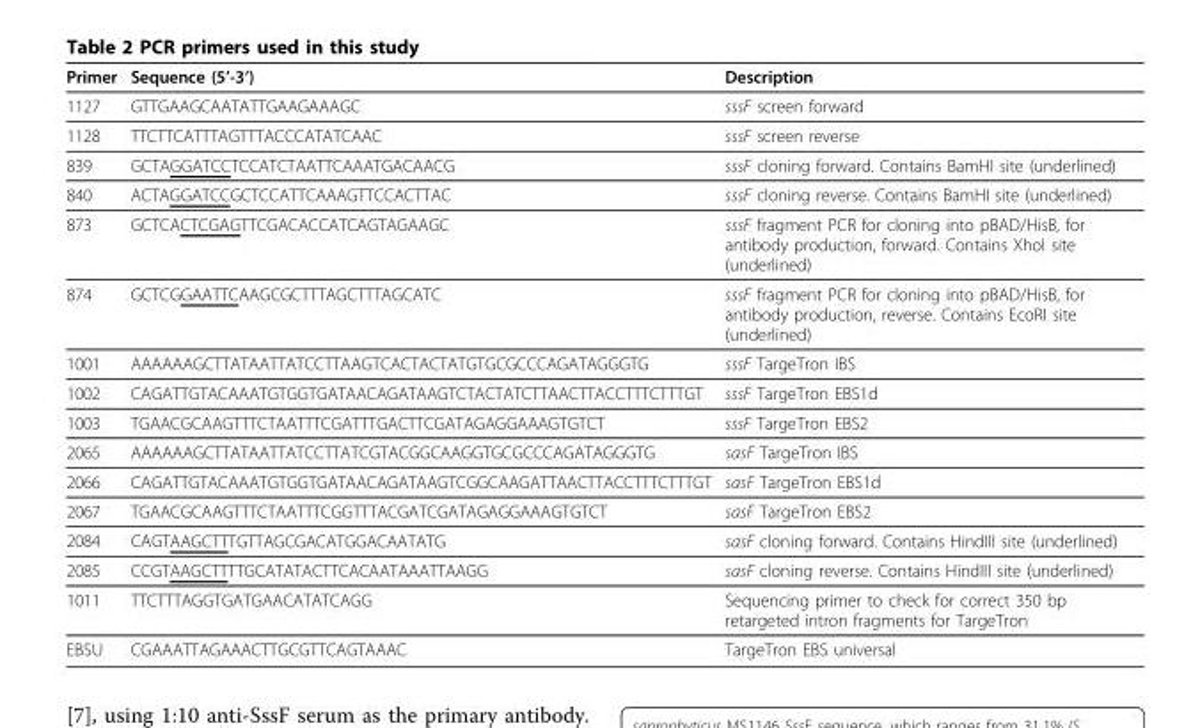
<table><thead><tr><td>Primer</td><td>Sequence (5’-3’)</td><td>Description</td></tr></thead><tbody><tr><td>1127</td><td>GTTGAAGCAATATTGAAGAAAGC</td><td>sssF screen forward</td></tr><tr><td>1128</td><td>TTCTTCATTTAGTTTACCCATATCAAC</td><td>sssF screen reverse</td></tr><tr><td>839</td><td>GCTAGGATCCTCCATCTAATTCAAATGACAACG</td><td>sssF cloning forward. Contains BamHI site (underlined)</td></tr><tr><td>840</td><td>ACTAGGATCCGCTCCATTCAAAGTTCCACTTAC</td><td>sssF cloning reverse. Contains BamHI site (underlined)</td></tr><tr><td>873</td><td>GCTCACTCGAGTTCGACACCATCAGTAGAAGC</td><td>sssF fragment PCR for cloning into pBAD/HisB, for antibody production, forward. Contains XhoI site (underlined)</td></tr><tr><td>874</td><td>GCTCGGAATTCAAGCGCTTTAGCTTTAGCATC</td><td>sssF fragment PCR for cloning into pBAD/HisB, for antibody production, reverse. Contains EcoRI site (underlined)</td></tr><tr><td>1001</td><td>AAAAAAGCTTATAATTATCCTTAAGTCACTACTATGTGCGCCCAGATAGGGTG</td><td>sssF TargeTron IBS</td></tr><tr><td>1002</td><td>CAGATTGTACAAATGTGGTGATAACAGATAAGTCTACTATCTTAACTTACCTTTCTTTGT</td><td>sssF TargeTron EBS1d</td></tr><tr><td>1003</td><td>TGAACGCAAGTTTCTAATTTCGATTTGACTTCGATAGAGGAAAGTGTCT</td><td>sssF TargeTron EBS2</td></tr><tr><td>2065</td><td>AAAAAAGCTTATAATTATCCTTATCGTACGGCAAGGTGCGCCCAGATAGGGTG</td><td>sasF TargeTron IBS</td></tr><tr><td>2066</td><td>CAGATTGTACAAATGTGGTGATAACAGATAAGTCGGCAAGATTAACTTACCTTTCTTTGT</td><td>sasF TargeTron EBS1d</td></tr><tr><td>2067</td><td>TGAACGCAAGTTTCTAATTTCGGTTTACGATCGATAGAGGAAAGTGTCT</td><td>sasF TargeTron EBS2</td></tr><tr><td>2084</td><td>CAGTAAGCTTTGTTAGCGACATGGACAATATG</td><td>sasF cloning forward. Contains HindIII site (underlined)</td></tr><tr><td>2085</td><td>CCGTAAGCTTTTGCATATACTTCACAATAAATTAAGG</td><td>sasF cloning reverse. Contains HindIII site (underlined)</td></tr><tr><td>1011</td><td>TTCTTTAGGTGATGAACATATCAGG</td><td>Sequencing primer to check for correct 350 bp retargeted intron fragments for TargeTron</td></tr><tr><td>EBSU</td><td>CGAAATTAGAAACTTGCGTTCAGTAAAC</td><td>TargeTron EBS universal</td></tr></tbody></table>